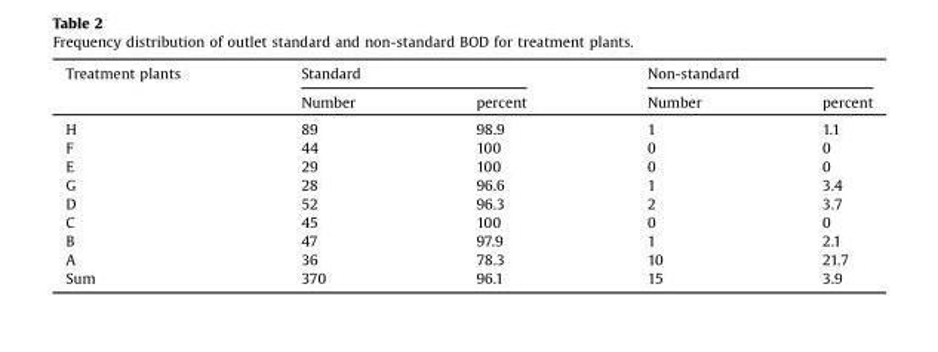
<table><thead><tr><td rowspan="2">Treatment plants</td><td colspan="2">Standard</td><td colspan="2">Non-standard</td></tr><tr><td>Number</td><td>percent</td><td>Number</td><td>percent</td></tr></thead><tbody><tr><td>H</td><td>89</td><td>98.9</td><td>1</td><td>1.1</td></tr><tr><td>F</td><td>44</td><td>100</td><td>0</td><td>0</td></tr><tr><td>E</td><td>29</td><td>100</td><td>0</td><td>0</td></tr><tr><td>G</td><td>28</td><td>96.6</td><td>1</td><td>3.4</td></tr><tr><td>D</td><td>52</td><td>96.3</td><td>2</td><td>3.7</td></tr><tr><td>C</td><td>45</td><td>100</td><td>0</td><td>0</td></tr><tr><td>B</td><td>47</td><td>97.9</td><td>1</td><td>2.1</td></tr><tr><td>A</td><td>36</td><td>78.3</td><td>10</td><td>21.7</td></tr><tr><td>Sum</td><td>370</td><td>96.1</td><td>15</td><td>3.9</td></tr></tbody></table>